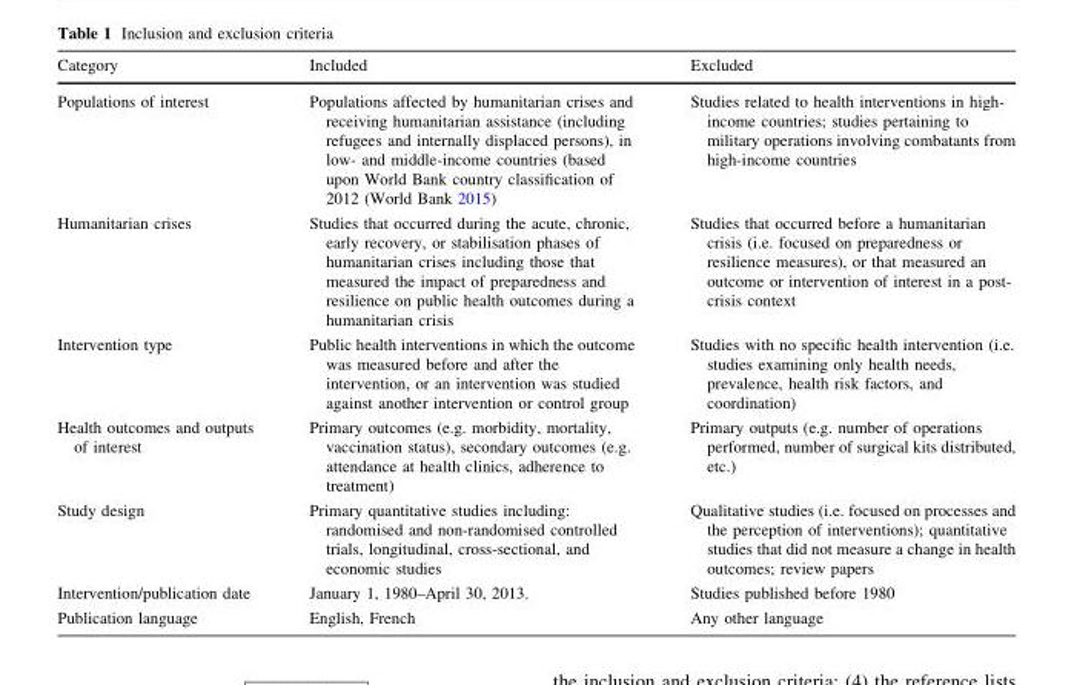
<table><thead><tr><td>Category</td><td>Included</td><td>Excluded</td></tr></thead><tbody><tr><td>Populations of interest</td><td>Populations affected by humanitarian crises and receiving humanitarian assistance (including refugees and internally displaced persons), in low- and middle-income countries (based upon World Bank country classification of 2012 (World Bank 2015)</td><td>Studies related to health interventions in high- income countries; studies pertaining to military operations involving combatants from high-income countries</td></tr><tr><td>Humanitarian crises</td><td>Studies that occurred during the acute, chronic, early recovery, or stabilisation phases of humanitarian crises including those that measured the impact of preparedness and resilience on public health outcomes during a humanitarian crisis</td><td>Studies that occurred before a humanitarian crisis (i.e. focused on preparedness or resilience measures), or that measured an outcome or intervention of interest in a post- crisis context</td></tr><tr><td>Intervention type</td><td>Public health interventions in which the outcome was measured before and after the intervention, or an intervention was studied against another intervention or control group</td><td>Studies with no specific health intervention (i.e. studies examining only health needs, prevalence, health risk factors, and coordination)</td></tr><tr><td>Health outcomes and outputs of interest</td><td>Primary outcomes (e.g. morbidity, mortality, vaccination status), secondary outcomes (e.g. attendance at health clinics, adherence to treatment)</td><td>Primary outputs (e.g. number of operations performed, number of surgical kits distributed, etc.)</td></tr><tr><td>Study design</td><td>Primary quantitative studies including: randomised and non-randomised controlled trials, longitudinal, cross-sectional, and economic studies</td><td>Qualitative studies (i.e. focused on processes and the perception of interventions); quantitative studies that did not measure a change in health outcomes; review papers</td></tr><tr><td>Intervention/publication date</td><td>January 1, 1980–April 30, 2013.</td><td>Studies published before 1980</td></tr><tr><td>Publication language</td><td>English, French</td><td>Any other language</td></tr></tbody></table>